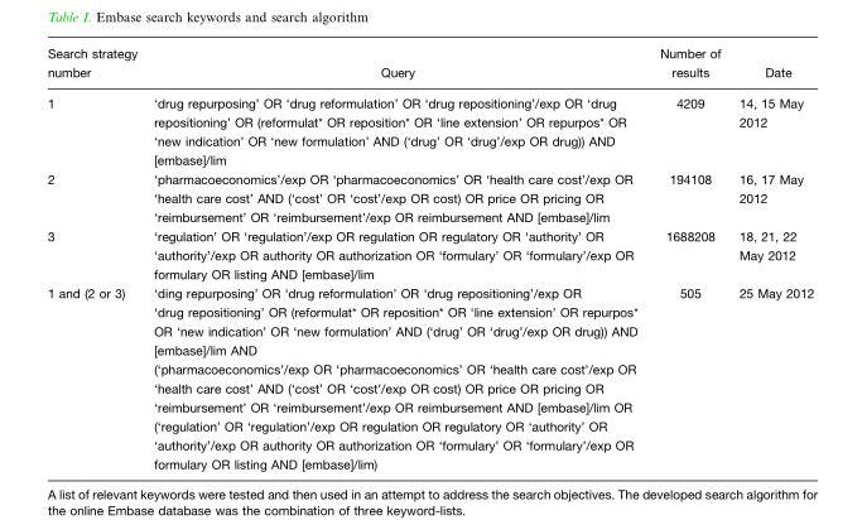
<table><thead><tr><td>Search strategy number</td><td>Query</td><td>Number of results</td><td>Date</td></tr></thead><tbody><tr><td>1</td><td>‘drug repurposing’ OR ‘drug reformulation’ OR ‘drug repositioning’/exp OR ‘drug repositioning’ OR (reformulat* OR reposition* OR ‘line extension’ OR repurpos* OR ‘new indication’ OR ‘new formulation’ AND (‘drug’ OR ‘drug’/exp OR drug)) AND [embase]/lim</td><td>4209</td><td>14, 15 May 2012</td></tr><tr><td>2</td><td>‘pharmacoeconomics’/exp OR ‘pharmacoeconomics’ OR ‘health care cost’/exp OR ‘health care cost’ AND (‘cost’ OR ‘cost’/exp OR cost) OR price OR pricing OR ‘reimbursement’ OR ‘reimbursement’/exp OR reimbursement AND [embase]/lim</td><td>194108</td><td>16, 17 May 2012</td></tr><tr><td>3</td><td>‘regulation’ OR ‘regulation’/exp OR regulation OR regulatory OR ‘authority’ OR ‘authority’/exp OR authority OR authorization OR ‘formulary’ OR ‘formulary’/exp OR formulary OR listing AND [embase]/lim</td><td>1688208</td><td>18, 21, 22 May 2012</td></tr><tr><td>1 and (2 or 3)</td><td>‘ding repurposing’ OR ‘drug reformulation’ OR ‘drug repositioning’/exp OR ‘drug repositioning’ OR (reformulat* OR reposition* OR ‘line extension’ OR repurpos* OR ‘new indication’ OR ‘new formulation’ AND (‘drug’ OR ‘drug’/exp OR drug)) AND [embase]/lim AND (‘pharmacoeconomics’/exp OR ‘pharmacoeconomics’ OR ‘health care cost’/exp OR ‘health care cost’ AND (‘cost’ OR ‘cost’/exp OR cost) OR price OR pricing OR ‘reimbursement’ OR ‘reimbursement’/exp OR reimbursement AND [embase]/lim OR (‘regulation’ OR ‘regulation’/exp OR regulation OR regulatory OR ‘authority’ OR ‘authority’/exp OR authority OR authorization OR ‘formulary’ OR ‘formulary’/exp OR formulary OR listing AND [embase]/lim)</td><td>505</td><td>25 May 2012</td></tr></tbody></table>